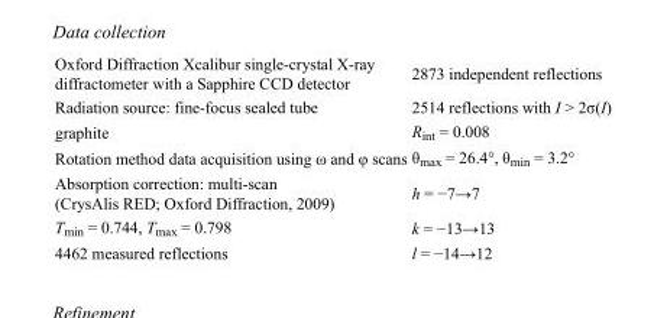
<table><tbody><tr><td>Oxford Diffraction Xcalibur single-crystal X-ray diffractometer with a Sapphire CCD detector</td><td>2873 independent reflections</td></tr><tr><td>Radiation source: fine-focus sealed tube</td><td>2514 reflections with I &gt; 2σ(I)</td></tr><tr><td>graphite</td><td>R<sub>int</sub> = 0.008</td></tr><tr><td>Rotation method data acquisition using ω and φ scans</td><td>θ<sub>max</sub> = 26.4°, θ<sub>min</sub> = 3.2°</td></tr><tr><td>Absorption correction: multi-scan (CrysAlis RED; Oxford Diffraction, 2009)</td><td>h = −7→7</td></tr><tr><td>T<sub>min</sub> = 0.744, T<sub>max</sub> = 0.798</td><td>k = −13→13</td></tr><tr><td>4462 measured reflections</td><td>l = −14→12</td></tr></tbody></table>